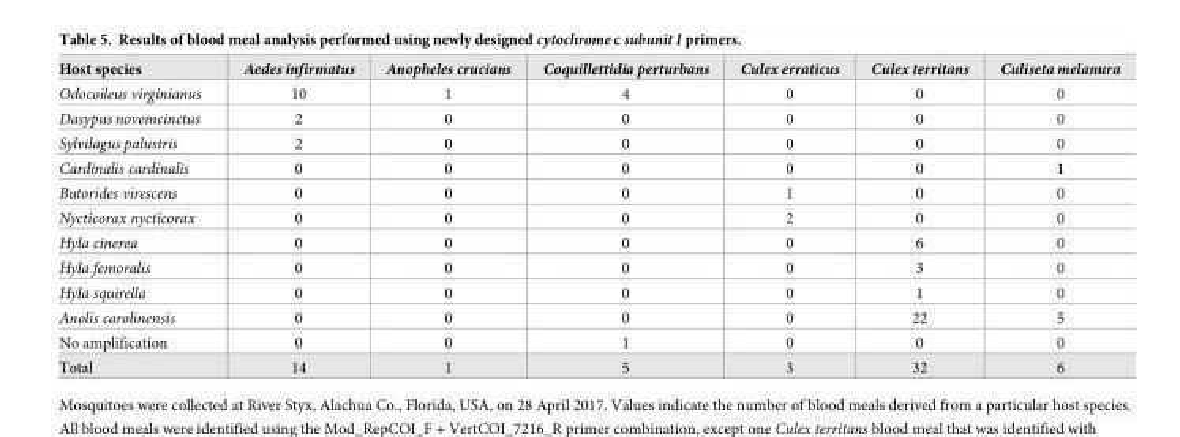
<table><thead><tr><td>Host species</td><td>Aedes infirmatus</td><td>Anopheles crucians</td><td>Coquillettidia perturbans</td><td>Culex erraticus</td><td>Culex territans</td><td>Culiseta melanura</td></tr></thead><tbody><tr><td>Odocoileus virginianus</td><td>10</td><td>1</td><td>4</td><td>0</td><td>0</td><td>0</td></tr><tr><td>Dasypus novemcinctus</td><td>2</td><td>0</td><td>0</td><td>0</td><td>0</td><td>0</td></tr><tr><td>Sylvilagus palustris</td><td>2</td><td>0</td><td>0</td><td>0</td><td>0</td><td>0</td></tr><tr><td>Cardinalis cardinalis</td><td>0</td><td>0</td><td>0</td><td>0</td><td>0</td><td>1</td></tr><tr><td>Butorides virescens</td><td>0</td><td>0</td><td>0</td><td>1</td><td>0</td><td>0</td></tr><tr><td>Nycticorax nycticorax</td><td>0</td><td>0</td><td>0</td><td>2</td><td>0</td><td>0</td></tr><tr><td>Hyla cinerea</td><td>0</td><td>0</td><td>0</td><td>0</td><td>6</td><td>0</td></tr><tr><td>Hyla femoralis</td><td>0</td><td>0</td><td>0</td><td>0</td><td>3</td><td>0</td></tr><tr><td>Hyla squirella</td><td>0</td><td>0</td><td>0</td><td>0</td><td>1</td><td>0</td></tr><tr><td>Anolis carolinensis</td><td>0</td><td>0</td><td>0</td><td>0</td><td>22</td><td>5</td></tr><tr><td>No amplification</td><td>0</td><td>0</td><td>1</td><td>0</td><td>0</td><td>0</td></tr><tr><td>Total</td><td>14</td><td>1</td><td>5</td><td>3</td><td>32</td><td>6</td></tr></tbody></table>